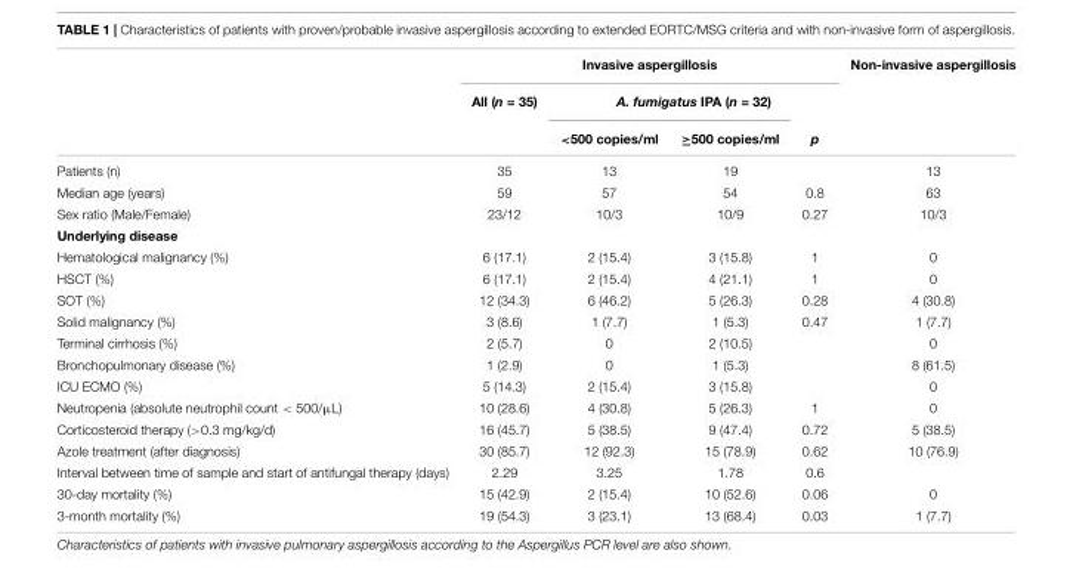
<table><thead><tr><td rowspan="3"></td><td colspan="4">Invasive aspergillosis</td><td rowspan="3">Non-invasive aspergillosis</td></tr><tr><td rowspan="2">All (n = 35)</td><td colspan="2">A. fumigatus IPA (n = 32)</td><td rowspan="2">p</td></tr><tr><td>&lt;500 copies/ml</td><td>≥500 copies/ml</td></tr></thead><tbody><tr><td>Patients (n)</td><td>35</td><td>13</td><td>19</td><td></td><td>13</td></tr><tr><td>Median age (years)</td><td>59</td><td>57</td><td>54</td><td>0.8</td><td>63</td></tr><tr><td>Sex ratio (Male/Female)</td><td>23/12</td><td>10/3</td><td>10/9</td><td>0.27</td><td>10/3</td></tr><tr><td colspan="6">Underlying disease</td></tr><tr><td>Hematological malignancy (%)</td><td>6 (17.1)</td><td>2 (15.4)</td><td>3 (15.8)</td><td>1</td><td>0</td></tr><tr><td>HSCT (%)</td><td>6 (17.1)</td><td>2 (15.4)</td><td>4 (21.1)</td><td>1</td><td>0</td></tr><tr><td>SOT (%)</td><td>12 (34.3)</td><td>6 (46.2)</td><td>5 (26.3)</td><td>0.28</td><td>4 (30.8)</td></tr><tr><td>Solid malignancy (%)</td><td>3 (8.6)</td><td>1 (7.7)</td><td>1 (5.3)</td><td>0.47</td><td>1 (7.7)</td></tr><tr><td>Terminal cirrhosis (%)</td><td>2 (5.7)</td><td>0</td><td>2 (10.5)</td><td></td><td>0</td></tr><tr><td>Bronchopulmonary disease (%)</td><td>1 (2.9)</td><td>0</td><td>1 (5.3)</td><td></td><td>8 (61.5)</td></tr><tr><td>ICU ECMO (%)</td><td>5 (14.3)</td><td>2 (15.4)</td><td>3 (15.8)</td><td></td><td>0</td></tr><tr><td>Neutropenia (absolute neutrophil count &lt; 500/µL)</td><td>10 (28.6)</td><td>4 (30.8)</td><td>5 (26.3)</td><td>1</td><td>0</td></tr><tr><td>Corticosteroid therapy (&gt;0.3 mg/kg/d)</td><td>16 (45.7)</td><td>5 (38.5)</td><td>9 (47.4)</td><td>0.72</td><td>5 (38.5)</td></tr><tr><td>Azole treatment (after diagnosis)</td><td>30 (85.7)</td><td>12 (92.3)</td><td>15 (78.9)</td><td>0.62</td><td>10 (76.9)</td></tr><tr><td>Interval between time of sample and start of antifungal therapy (days)</td><td>2.29</td><td>3.25</td><td>1.78</td><td>0.6</td><td></td></tr><tr><td>30-day mortality (%)</td><td>15 (42.9)</td><td>2 (15.4)</td><td>10 (52.6)</td><td>0.06</td><td>0</td></tr><tr><td>3-month mortality (%)</td><td>19 (54.3)</td><td>3 (23.1)</td><td>13 (68.4)</td><td>0.03</td><td>1 (7.7)</td></tr></tbody></table>